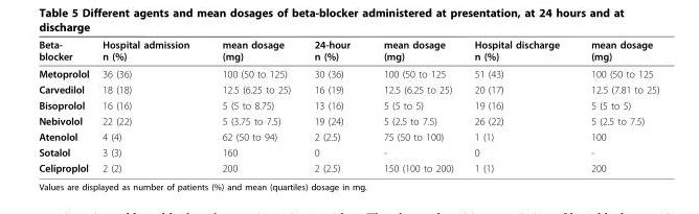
<table><thead><tr><td>Beta- blocker</td><td>Hospital admission n (%)</td><td>mean dosage (mg)</td><td>24-hour n (%)</td><td>mean dosage (mg)</td><td>Hospital discharge n (%)</td><td>mean dosage (mg)</td></tr></thead><tbody><tr><td>Metoprolol</td><td>36 (36)</td><td>100 (50 to 125)</td><td>30 (36)</td><td>100 (50 to 125</td><td>51 (43)</td><td>100 (50 to 125</td></tr><tr><td>Carvedilol</td><td>18 (18)</td><td>12.5 (6.25 to 25)</td><td>16 (19)</td><td>12.5 (6.25 to 25)</td><td>20 (17)</td><td>12.5 (7.81 to 25)</td></tr><tr><td>Bisoprolol</td><td>16 (16)</td><td>5 (5 to 8.75)</td><td>13 (16)</td><td>5 (5 to 5)</td><td>19 (16)</td><td>5 (5 to 5)</td></tr><tr><td>Nebivolol</td><td>22 (22)</td><td>5 (3.75 to 7.5)</td><td>19 (24)</td><td>5 (2.5 to 7.5)</td><td>26 (22)</td><td>5 (2.5 to 7.5)</td></tr><tr><td>Atenolol</td><td>4 (4)</td><td>62 (50 to 94)</td><td>2 (2.5)</td><td>75 (50 to 100)</td><td>1 (1)</td><td>100</td></tr><tr><td>Sotalol</td><td>3 (3)</td><td>160</td><td>0</td><td>-</td><td>0</td><td>-</td></tr><tr><td>Celiproplol</td><td>2 (2)</td><td>200</td><td>2 (2.5)</td><td>150 (100 to 200)</td><td>1 (1)</td><td>200</td></tr></tbody></table>